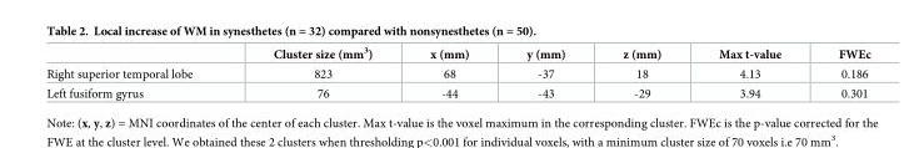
<table><thead><tr><td></td><td>Cluster size (mm<sup>3</sup>)</td><td>x (mm)</td><td>y (mm)</td><td>z (mm)</td><td>Max t-value</td><td>FWEc</td></tr></thead><tbody><tr><td>Right superior temporal lobe</td><td>823</td><td>68</td><td>-37</td><td>18</td><td>4.13</td><td>0.186</td></tr><tr><td>Left fusiform gyrus</td><td>76</td><td>-44</td><td>-43</td><td>-29</td><td>3.94</td><td>0.301</td></tr></tbody></table>